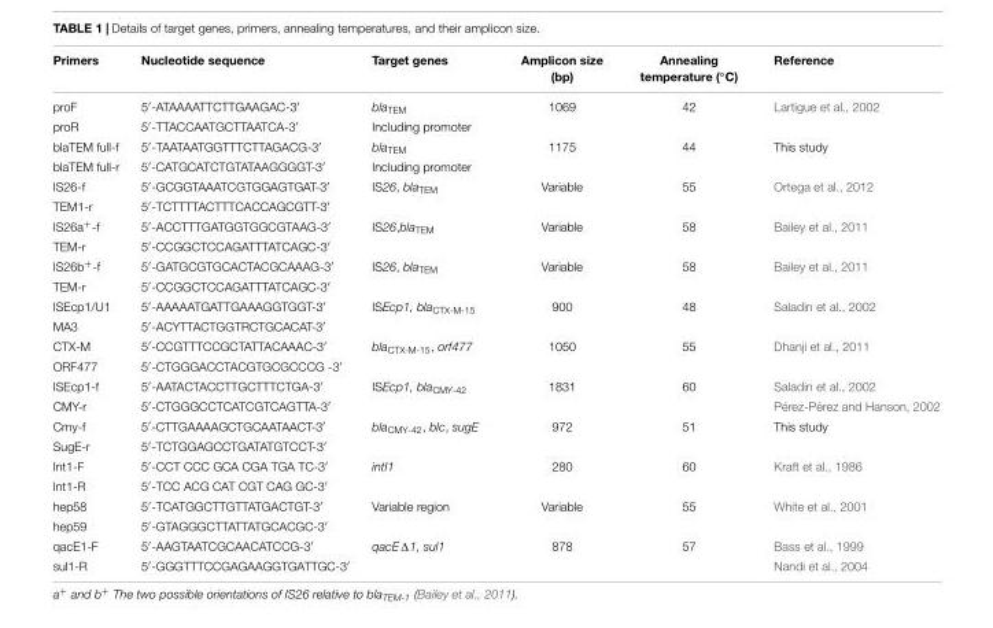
<table><thead><tr><td>Primers</td><td>Nucleotide sequence</td><td>Target genes</td><td>Amplicon size (bp)</td><td>Annealing temperature (◦C)</td><td>Reference</td></tr></thead><tbody><tr><td>proF</td><td>5′-ATAAAATTCTTGAAGAC-3′</td><td>bla<sub>TEM</sub></td><td>1069</td><td>42</td><td>Lartigue et al., 2002</td></tr><tr><td>proR</td><td>5′-TTACCAATGCTTAATCA-3′</td><td>Including promoter</td><td></td><td></td><td></td></tr><tr><td>blaTEM full-f</td><td>5′-TAATAATGGTTTCTTAGACG-3′</td><td>bla<sub>TEM</sub></td><td>1175</td><td>44</td><td>This study</td></tr><tr><td>blaTEM full-r</td><td>5′-CATGCATCTGTATAAGGGGT-3′</td><td>Including promoter</td><td></td><td></td><td></td></tr><tr><td>IS26-f</td><td>5′-GCGGTAAATCGTGGAGTGAT-3′</td><td>IS26, bla<sub>TEM</sub></td><td>Variable</td><td>55</td><td>Ortega et al., 2012</td></tr><tr><td>TEM1-r</td><td>5′-TCTTTTACTTTCACCAGCGTT-3′</td><td></td><td></td><td></td><td></td></tr><tr><td>IS26a<sup>+</sup>-f</td><td>5′-ACCTTTGATGGTGGCGTAAG-3′</td><td>IS26,bla<sub>TEM</sub></td><td>Variable</td><td>58</td><td>Bailey et al., 2011</td></tr><tr><td>TEM-r</td><td>5′-CCGGCTCCAGATTTATCAGC-3′</td><td></td><td></td><td></td><td></td></tr><tr><td>IS26b<sup>+</sup>-f</td><td>5′-GATGCGTGCACTACGCAAAG-3′</td><td>IS26, bla<sub>TEM</sub></td><td>Variable</td><td>58</td><td>Bailey et al., 2011</td></tr><tr><td>TEM-r</td><td>5′-CCGGCTCCAGATTTATCAGC-3′</td><td></td><td></td><td></td><td></td></tr><tr><td>ISEcp1/U1</td><td>5′-AAAAATGATTGAAAGGTGGT-3′</td><td>ISEcp1, bla<sub>CTX-M-15</sub></td><td>900</td><td>48</td><td>Saladin et al., 2002</td></tr><tr><td>MA3</td><td>5′-ACYTTACTGGTRCTGCACAT-3′</td><td></td><td></td><td></td><td></td></tr><tr><td>CTX-M</td><td>5′-CCGTTTCCGCTATTACAAAC-3′</td><td>bla<sub>CTX-M-15</sub>, orf477</td><td>1050</td><td>55</td><td>Dhanji et al., 2011</td></tr><tr><td>ORF477</td><td>5′-CTGGGACCTACGTGCGCCCG -3′</td><td></td><td></td><td></td><td></td></tr><tr><td>ISEcp1-f</td><td>5′-AATACTACCTTGCTTTCTGA-3′</td><td>ISEcp1, bla<sub>CMY-42</sub></td><td>1831</td><td>60</td><td>Saladin et al., 2002</td></tr><tr><td>CMY-r</td><td>5′-CTGGGCCTCATCGTCAGTTA-3′</td><td></td><td></td><td></td><td>Pérez-Pérez and Hanson, 2002</td></tr><tr><td>Cmy-f</td><td>5′-CTTGAAAAGCTGCAATAACT-3′</td><td>bla<sub>CMY-42</sub>, blc, sugE</td><td>972</td><td>51</td><td>This study</td></tr><tr><td>SugE-r</td><td>5′-TCTGGAGCCTGATATGTCCT-3′</td><td></td><td></td><td></td><td></td></tr><tr><td>Int1-F</td><td>5′-CCT CCC GCA CGA TGA TC-3′</td><td>intI1</td><td>280</td><td>60</td><td>Kraft et al., 1986</td></tr><tr><td>Int1-R</td><td>5′-TCC ACG CAT CGT CAG GC-3′</td><td></td><td></td><td></td><td></td></tr><tr><td>hep58</td><td>5′-TCATGGCTTGTTATGACTGT-3′</td><td>Variable region</td><td>Variable</td><td>55</td><td>White et al., 2001</td></tr><tr><td>hep59</td><td>5′-GTAGGGCTTATTATGCACGC-3′</td><td></td><td></td><td></td><td></td></tr><tr><td>qacE1-F</td><td>5′-AAGTAATCGCAACATCCG-3′</td><td>qacEΔ1, sul1</td><td>878</td><td>57</td><td>Bass et al., 1999</td></tr><tr><td>sul1-R</td><td>5′-GGGTTTCCGAGAAGGTGATTGC-3′</td><td></td><td></td><td></td><td>Nandi et al., 2004</td></tr></tbody></table>